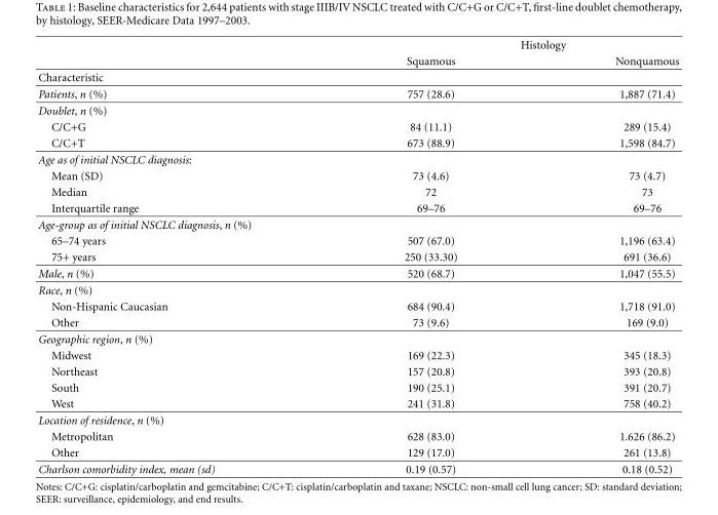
<table><thead><tr><td rowspan="2"></td><td colspan="2">Histology</td></tr><tr><td>Squamous</td><td>Nonquamous</td></tr></thead><tbody><tr><td colspan="3">Characteristic</td></tr><tr><td>Patients, n (%)</td><td>757 (28.6)</td><td>1,887 (71.4)</td></tr><tr><td colspan="3">Doublet, n (%)</td></tr><tr><td>C/C+G</td><td>84 (11.1)</td><td>289 (15.4)</td></tr><tr><td>C/C+T</td><td>673 (88.9)</td><td>1,598 (84.7)</td></tr><tr><td colspan="3">Age as of initial NSCLC diagnosis:</td></tr><tr><td>Mean (SD)</td><td>73 (4.6)</td><td>73 (4.7)</td></tr><tr><td>Median</td><td>72</td><td>73</td></tr><tr><td>Interquartile range</td><td>69–76</td><td>69–76</td></tr><tr><td colspan="3">Age-group as of initial NSCLC diagnosis, n (%)</td></tr><tr><td>65–74 years</td><td>507 (67.0)</td><td>1,196 (63.4)</td></tr><tr><td>75+ years</td><td>250 (33.30)</td><td>691 (36.6)</td></tr><tr><td>Male, n (%)</td><td>520 (68.7)</td><td>1,047 (55.5)</td></tr><tr><td colspan="3">Race, n (%)</td></tr><tr><td>Non-Hispanic Caucasian</td><td>684 (90.4)</td><td>1,718 (91.0)</td></tr><tr><td>Other</td><td>73 (9.6)</td><td>169 (9.0)</td></tr><tr><td colspan="3">Geographic region, n (%)</td></tr><tr><td>Midwest</td><td>169 (22.3)</td><td>345 (18.3)</td></tr><tr><td>Northeast</td><td>157 (20.8)</td><td>393 (20.8)</td></tr><tr><td>South</td><td>190 (25.1)</td><td>391 (20.7)</td></tr><tr><td>West</td><td>241 (31.8)</td><td>758 (40.2)</td></tr><tr><td colspan="3">Location of residence, n (%)</td></tr><tr><td>Metropolitan</td><td>628 (83.0)</td><td>1.626 (86.2)</td></tr><tr><td>Other</td><td>129 (17.0)</td><td>261 (13.8)</td></tr><tr><td>Charlson comorbidity index, mean (sd)</td><td>0.19 (0.57)</td><td>0.18 (0.52)</td></tr></tbody></table>